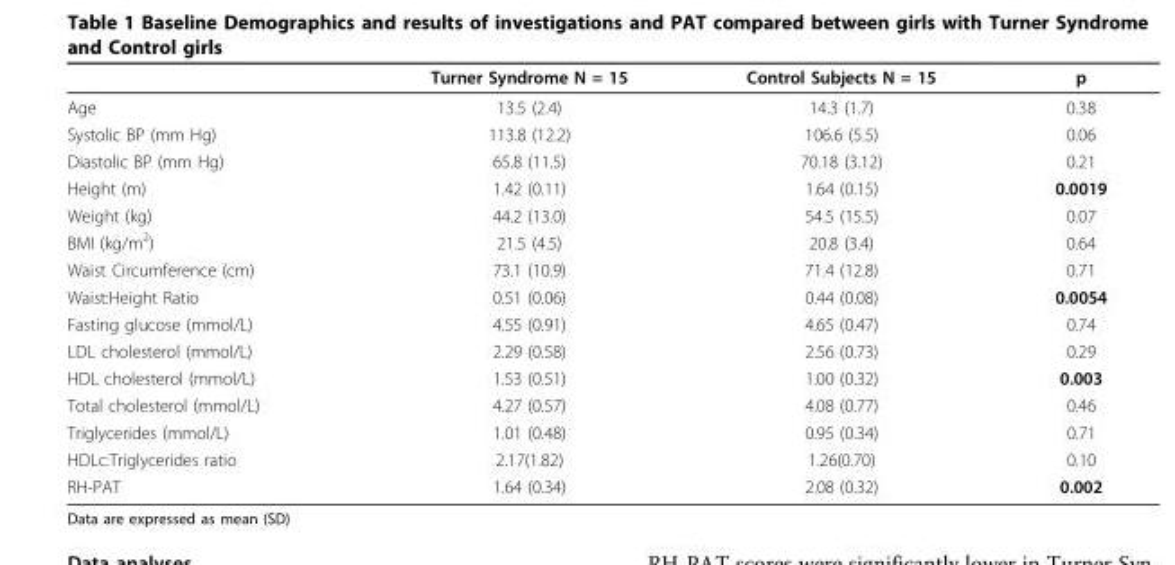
<table><thead><tr><td></td><td>Turner Syndrome N = 15</td><td>Control Subjects N = 15</td><td>p</td></tr></thead><tbody><tr><td>Age</td><td>13.5 (2.4)</td><td>14.3 (1.7)</td><td>0.38</td></tr><tr><td>Systolic BP (mm Hg)</td><td>113.8 (12.2)</td><td>106.6 (5.5)</td><td>0.06</td></tr><tr><td>Diastolic BP (mm Hg)</td><td>65.8 (11.5)</td><td>70.18 (3.12)</td><td>0.21</td></tr><tr><td>Height (m)</td><td>1.42 (0.11)</td><td>1.64 (0.15)</td><td>0.0019</td></tr><tr><td>Weight (kg)</td><td>44.2 (13.0)</td><td>54.5 (15.5)</td><td>0.07</td></tr><tr><td>BMI (kg/m<sup>2</sup>)</td><td>21.5 (4.5)</td><td>20.8 (3.4)</td><td>0.64</td></tr><tr><td>Waist Circumference (cm)</td><td>73.1 (10.9)</td><td>71.4 (12.8)</td><td>0.71</td></tr><tr><td>Waist:Height Ratio</td><td>0.51 (0.06)</td><td>0.44 (0.08)</td><td>0.0054</td></tr><tr><td>Fasting glucose (mmol/L)</td><td>4.55 (0.91)</td><td>4.65 (0.47)</td><td>0.74</td></tr><tr><td>LDL cholesterol (mmol/L)</td><td>2.29 (0.58)</td><td>2.56 (0.73)</td><td>0.29</td></tr><tr><td>HDL cholesterol (mmol/L)</td><td>1.53 (0.51)</td><td>1.00 (0.32)</td><td>0.003</td></tr><tr><td>Total cholesterol (mmol/L)</td><td>4.27 (0.57)</td><td>4.08 (0.77)</td><td>0.46</td></tr><tr><td>Triglycerides (mmol/L)</td><td>1.01 (0.48)</td><td>0.95 (0.34)</td><td>0.71</td></tr><tr><td>HDLc:Triglycerides ratio</td><td>2.17(1.82)</td><td>1.26(0.70)</td><td>0.10</td></tr><tr><td>RH-PAT</td><td>1.64 (0.34)</td><td>2.08 (0.32)</td><td>0.002</td></tr></tbody></table>